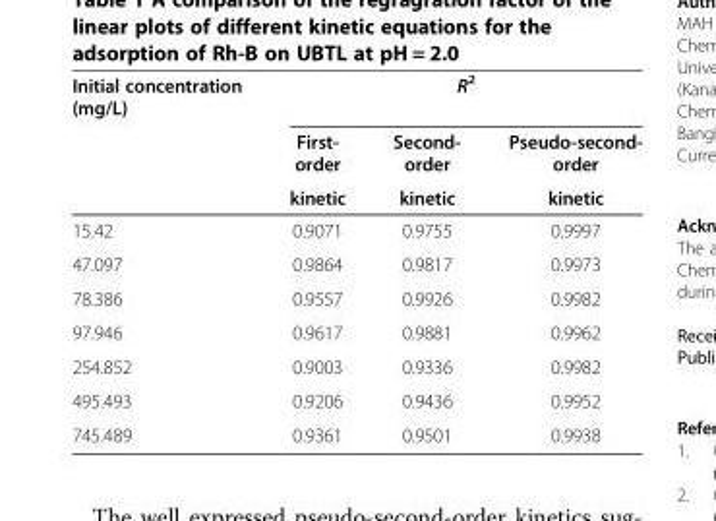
<table><tbody><tr><td rowspan="3">Initial concentration (mg/L)</td><td colspan="3">R<sup>2</sup></td></tr><tr><td>First- order</td><td>Second- order</td><td>Pseudo-second- order</td></tr><tr><td>kinetic</td><td>kinetic</td><td>kinetic</td></tr><tr><td>15.42</td><td>0.9071</td><td>0.9755</td><td>0.9997</td></tr><tr><td>47.097</td><td>0.9864</td><td>0.9817</td><td>0.9973</td></tr><tr><td>78.386</td><td>0.9557</td><td>0.9926</td><td>0.9982</td></tr><tr><td>97.946</td><td>0.9617</td><td>0.9881</td><td>0.9962</td></tr><tr><td>254.852</td><td>0.9003</td><td>0.9336</td><td>0.9982</td></tr><tr><td>495.493</td><td>0.9206</td><td>0.9436</td><td>0.9952</td></tr><tr><td>745.489</td><td>0.9361</td><td>0.9501</td><td>0.9938</td></tr></tbody></table>